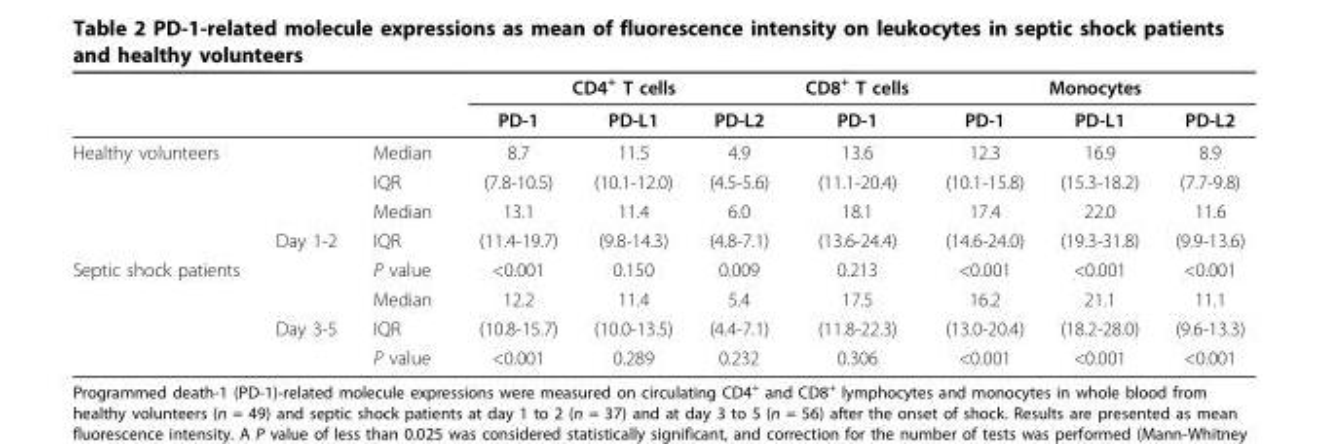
<table><thead><tr><td rowspan="2"></td><td rowspan="2"></td><td rowspan="2"></td><td colspan="3">CD4<sup>+</sup> T cells</td><td rowspan="2">CD8<sup>+</sup> T cells PD-1</td><td colspan="3">Monocytes</td></tr><tr><td>PD-1</td><td>PD-L1</td><td>PD-L2</td><td>PD-1</td><td>PD-L1</td><td>PD-L2</td></tr></thead><tbody><tr><td rowspan="4">Healthy volunteers</td><td></td><td>Median</td><td>8.7</td><td>11.5</td><td>4.9</td><td>13.6</td><td>12.3</td><td>16.9</td><td>8.9</td></tr><tr><td></td><td>IQR</td><td>(7.8-10.5)</td><td>(10.1-12.0)</td><td>(4.5-5.6)</td><td>(11.1-20.4)</td><td>(10.1-15.8)</td><td>(15.3-18.2)</td><td>(7.7-9.8)</td></tr><tr><td></td><td>Median</td><td>13.1</td><td>11.4</td><td>6.0</td><td>18.1</td><td>17.4</td><td>22.0</td><td>11.6</td></tr><tr><td>Day 1-2</td><td>IQR</td><td>(11.4-19.7)</td><td>(9.8-14.3)</td><td>(4.8-7.1)</td><td>(13.6-24.4)</td><td>(14.6-24.0)</td><td>(19.3-31.8)</td><td>(9.9-13.6)</td></tr><tr><td rowspan="4">Septic shock patients</td><td></td><td>P value</td><td>&lt;0.001</td><td>0.150</td><td>0.009</td><td>0.213</td><td>&lt;0.001</td><td>&lt;0.001</td><td>&lt;0.001</td></tr><tr><td></td><td>Median</td><td>12.2</td><td>11.4</td><td>5.4</td><td>17.5</td><td>16.2</td><td>21.1</td><td>11.1</td></tr><tr><td>Day 3-5</td><td>IQR</td><td>(10.8-15.7)</td><td>(10.0-13.5)</td><td>(4.4-7.1)</td><td>(11.8-22.3)</td><td>(13.0-20.4)</td><td>(18.2-28.0)</td><td>(9.6-13.3)</td></tr><tr><td></td><td>P value</td><td>&lt;0.001</td><td>0.289</td><td>0.232</td><td>0.306</td><td>&lt;0.001</td><td>&lt;0.001</td><td>&lt;0.001</td></tr></tbody></table>